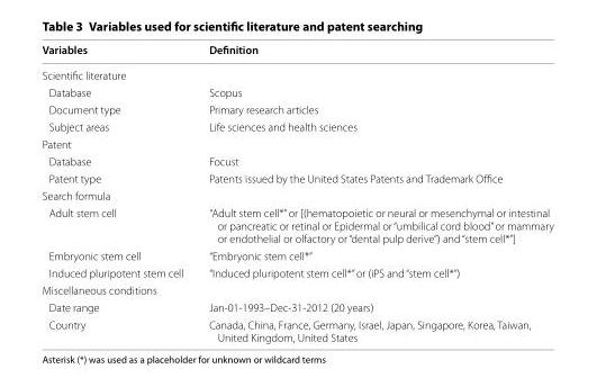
<table><thead><tr><td>Variables</td><td>Definition</td></tr></thead><tbody><tr><td colspan="2">Scientific literature</td></tr><tr><td>Database</td><td>Scopus</td></tr><tr><td>Document type</td><td>Primary research articles</td></tr><tr><td>Subject areas</td><td>Life sciences and health sciences</td></tr><tr><td colspan="2">Patent</td></tr><tr><td>Database</td><td>Focust</td></tr><tr><td>Patent type</td><td>Patents issued by the United States Patents and Trademark Office</td></tr><tr><td colspan="2">Search formula</td></tr><tr><td>Adult stem cell</td><td>“Adult stem cell*” or [(hematopoietic or neural or mesenchymal or intestinal or pancreatic or retinal or Epidermal or “umbilical cord blood” or mammary or endothelial or olfactory or “dental pulp derive”) and “stem cell*”]</td></tr><tr><td>Embryonic stem cell</td><td>“Embryonic stem cell*”</td></tr><tr><td>Induced pluripotent stem cell</td><td>“Induced pluripotent stem cell*” or (iPS and “stem cell*”)</td></tr><tr><td colspan="2">Miscellaneous conditions</td></tr><tr><td>Date range</td><td>Jan-01-1993–Dec-31-2012 (20 years)</td></tr><tr><td>Country</td><td>Canada, China, France, Germany, Israel, Japan, Singapore, Korea, Taiwan, United Kingdom, United States</td></tr></tbody></table>